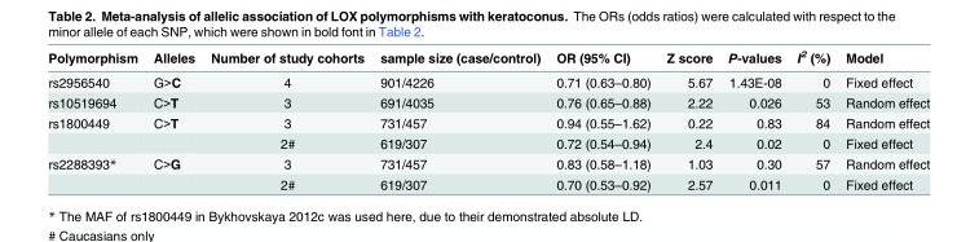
<table><thead><tr><td>Polymorphism</td><td>Alleles</td><td>Number of study cohorts</td><td>sample size (case/control)</td><td>OR (95% CI)</td><td>Z score</td><td>P-values</td><td>I<sup>2</sup> (%)</td><td>Model</td></tr></thead><tbody><tr><td>rs2956540</td><td>G&gt;C</td><td>4</td><td>901/4226</td><td>0.71 (0.63–0.80)</td><td>5.67</td><td>1.43E-08</td><td>0</td><td>Fixed effect</td></tr><tr><td>rs10519694</td><td>C&gt;T</td><td>3</td><td>691/4035</td><td>0.76 (0.65–0.88)</td><td>2.22</td><td>0.026</td><td>53</td><td>Random effect</td></tr><tr><td rowspan="2">rs1800449</td><td>C&gt;T</td><td>3</td><td>731/457</td><td>0.94 (0.55–1.62)</td><td>0.22</td><td>0.83</td><td>84</td><td>Random effect</td></tr><tr><td></td><td>2#</td><td>619/307</td><td>0.72 (0.54–0.94)</td><td>2.4</td><td>0.02</td><td>0</td><td>Fixed effect</td></tr><tr><td rowspan="2">rs2288393*</td><td>C&gt;G</td><td>3</td><td>731/457</td><td>0.83 (0.58–1.18)</td><td>1.03</td><td>0.30</td><td>57</td><td>Random effect</td></tr><tr><td></td><td>2#</td><td>619/307</td><td>0.70 (0.53–0.92)</td><td>2.57</td><td>0.011</td><td>0</td><td>Fixed effect</td></tr></tbody></table>